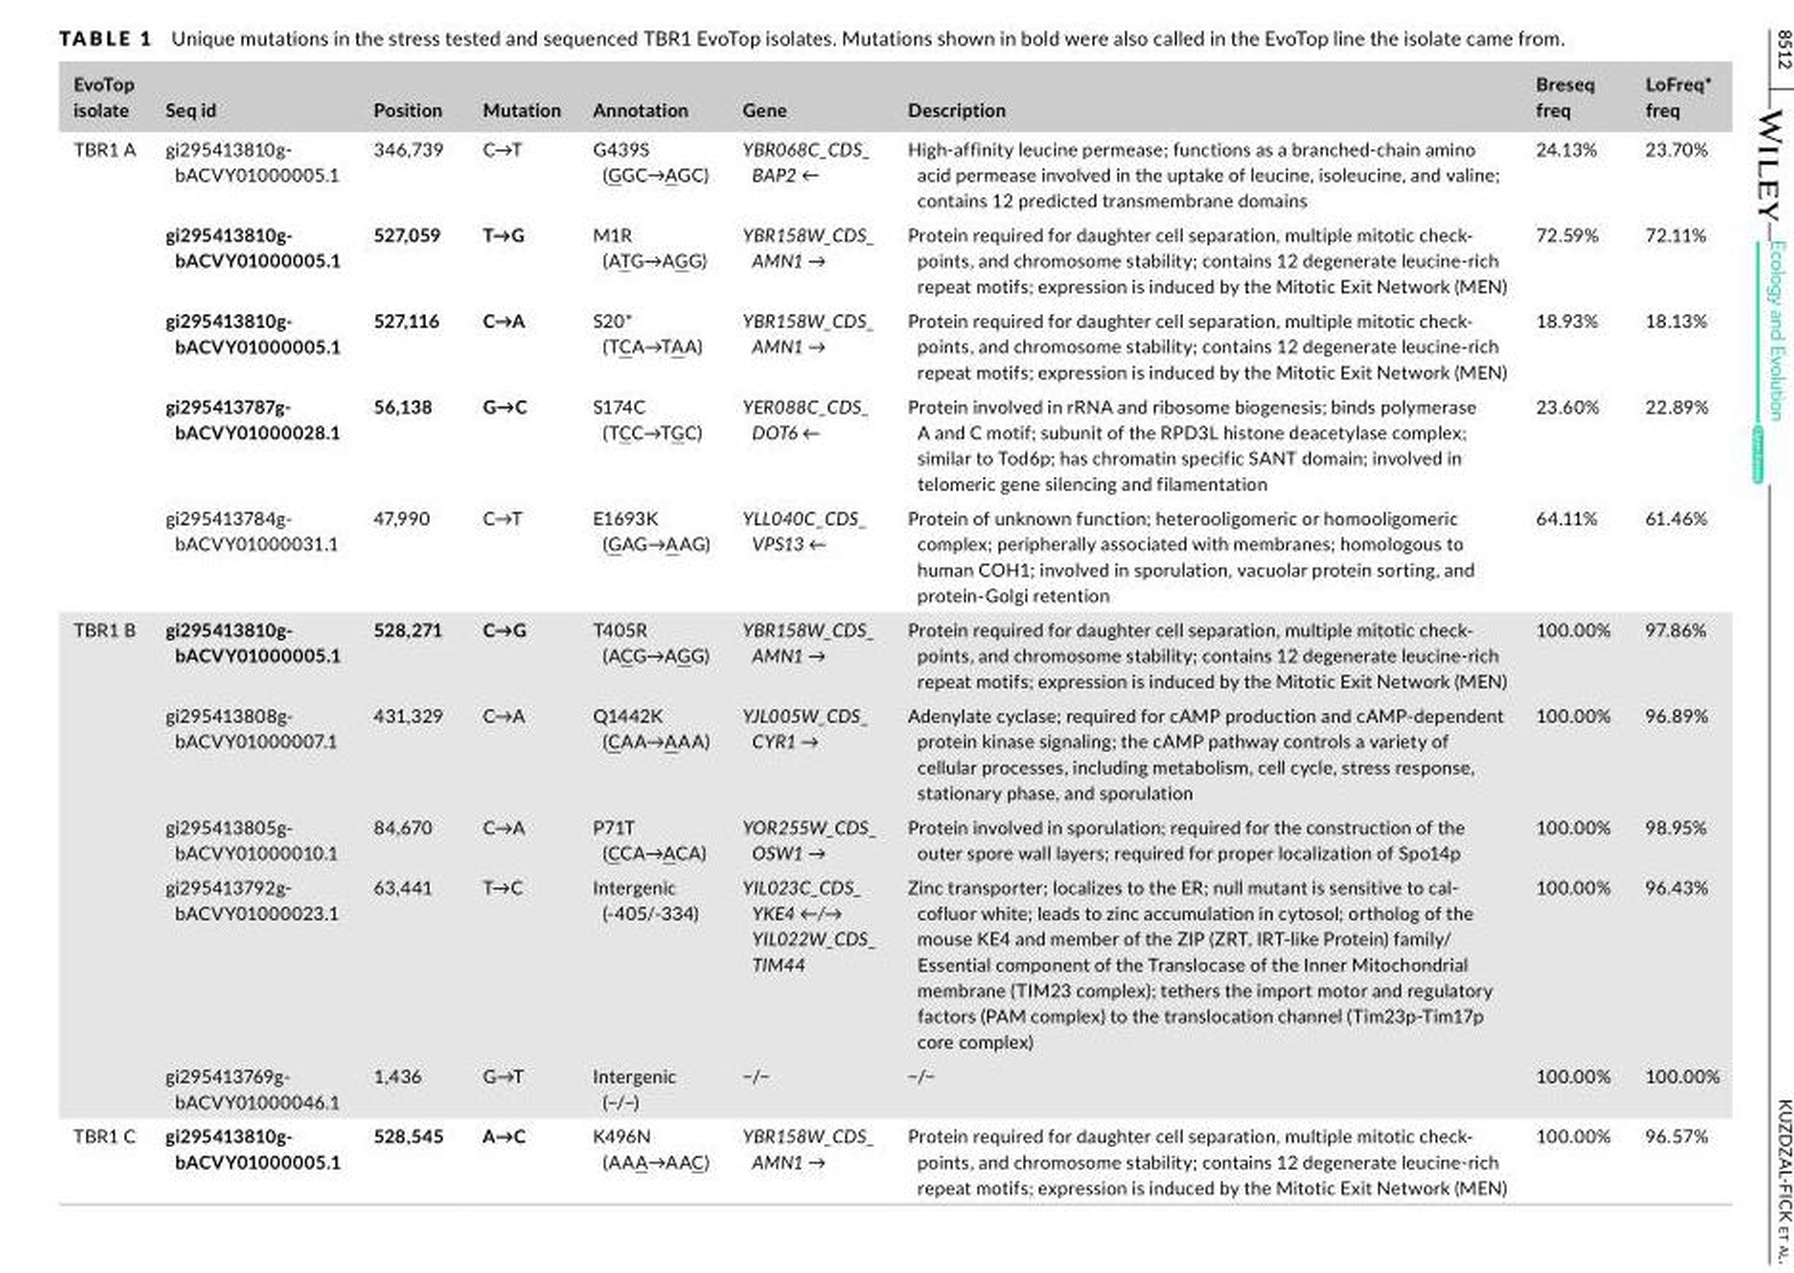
<table><thead><tr><td>EvoTop isolate</td><td>Seq id</td><td>Position</td><td>Mutation</td><td>Annotation</td><td>Gene</td><td>Description</td><td>Breseq freq</td><td>LoFreq* freq</td></tr></thead><tbody><tr><td rowspan="5">TBR1 A</td><td>gi295413810g‐ bACVY01000005.1</td><td>346,739</td><td>C→T</td><td>G439S (GGC→AGC)</td><td>YBR068C_CDS_ BAP2 ←</td><td>High‐affinity leucine permease; functions as a branched‐chain amino acid permease involved in the uptake of leucine, isoleucine, and valine; contains 12 predicted transmembrane domains</td><td>24.13%</td><td>23.70%</td></tr><tr><td>gi295413810g‐ bACVY01000005.1</td><td>527,059</td><td>T→G</td><td>M1R (ATG→AGG)</td><td>YBR158W_CDS_ AMN1 →</td><td>Protein required for daughter cell separation, multiple mitotic check‐ points, and chromosome stability; contains 12 degenerate leucine‐rich repeat motifs; expression is induced by the Mitotic Exit Network (MEN)</td><td>72.59%</td><td>72.11%</td></tr><tr><td>gi295413810g‐ bACVY01000005.1</td><td>527,116</td><td>C→A</td><td>S20* (TCA→TAA)</td><td>YBR158W_CDS_ AMN1 →</td><td>Protein required for daughter cell separation, multiple mitotic check‐ points, and chromosome stability; contains 12 degenerate leucine‐rich repeat motifs; expression is induced by the Mitotic Exit Network (MEN)</td><td>18.93%</td><td>18.13%</td></tr><tr><td>gi295413787g‐ bACVY01000028.1</td><td>56,138</td><td>G→C</td><td>S174C (TCC→TGC)</td><td>YER088C_CDS_ DOT6 ←</td><td>Protein involved in rRNA and ribosome biogenesis; binds polymerase A and C motif; subunit of the RPD3L histone deacetylase complex; similar to Tod6p; has chromatin specific SANT domain; involved in telomeric gene silencing and filamentation</td><td>23.60%</td><td>22.89%</td></tr><tr><td>gi295413784g‐ bACVY01000031.1</td><td>47,990</td><td>C→T</td><td>E1693K (GAG→AAG)</td><td>YLL040C_CDS_ VPS13 ←</td><td>Protein of unknown function; heterooligomeric or homooligomeric complex; peripherally associated with membranes; homologous to human COH1; involved in sporulation, vacuolar protein sorting, and protein‐Golgi retention</td><td>64.11%</td><td>61.46%</td></tr><tr><td rowspan="5">TBR1 B</td><td>gi295413810g‐ bACVY01000005.1</td><td>528,271</td><td>C→G</td><td>T405R (ACG→AGG)</td><td>YBR158W_CDS_ AMN1 →</td><td>Protein required for daughter cell separation, multiple mitotic check‐ points, and chromosome stability; contains 12 degenerate leucine‐rich repeat motifs; expression is induced by the Mitotic Exit Network (MEN)</td><td>100.00%</td><td>97.86%</td></tr><tr><td>gi295413808g‐ bACVY01000007.1</td><td>431,329</td><td>C→A</td><td>Q1442K (CAA→AAA)</td><td>YJL005W_CDS_ CYR1 →</td><td>Adenylate cyclase; required for cAMP production and cAMP‐dependent protein kinase signaling; the cAMP pathway controls a variety of cellular processes, including metabolism, cell cycle, stress response, stationary phase, and sporulation</td><td>100.00%</td><td>96.89%</td></tr><tr><td>gi295413805g‐ bACVY01000010.1</td><td>84,670</td><td>C→A</td><td>P71T (CCA→ACA)</td><td>YOR255W_CDS_ OSW1 →</td><td>Protein involved in sporulation; required for the construction of the outer spore wall layers; required for proper localization of Spo14p</td><td>100.00%</td><td>98.95%</td></tr><tr><td>gi295413792g‐ bACVY01000023.1</td><td>63,441</td><td>T→C</td><td>Intergenic (‐405/‐334)</td><td>YIL023C_CDS_ YKE4 ←/→ YIL022W_CDS_ TIM44</td><td>Zinc transporter; localizes to the ER; null mutant is sensitive to cal‐ cofluor white; leads to zinc accumulation in cytosol; ortholog of the mouse KE4 and member of the ZIP (ZRT, IRT‐like Protein) family/ Essential component of the Translocase of the Inner Mitochondrial membrane (TIM23 complex); tethers the import motor and regulatory factors (PAM complex) to the translocation channel (Tim23p‐Tim17p core complex)</td><td>100.00%</td><td>96.43%</td></tr><tr><td>gi295413769g‐ bACVY01000046.1</td><td>1,436</td><td>G→T</td><td>Intergenic (−/−)</td><td>−/−</td><td>−/−</td><td>100.00%</td><td>100.00%</td></tr><tr><td>TBR1 C</td><td>gi295413810g‐ bACVY01000005.1</td><td>528,545</td><td>A→C</td><td>K496N (AAA→AAC)</td><td>YBR158W_CDS_ AMN1 →</td><td>Protein required for daughter cell separation, multiple mitotic check‐ points, and chromosome stability; contains 12 degenerate leucine‐rich repeat motifs; expression is induced by the Mitotic Exit Network (MEN)</td><td>100.00%</td><td>96.57%</td></tr></tbody></table>